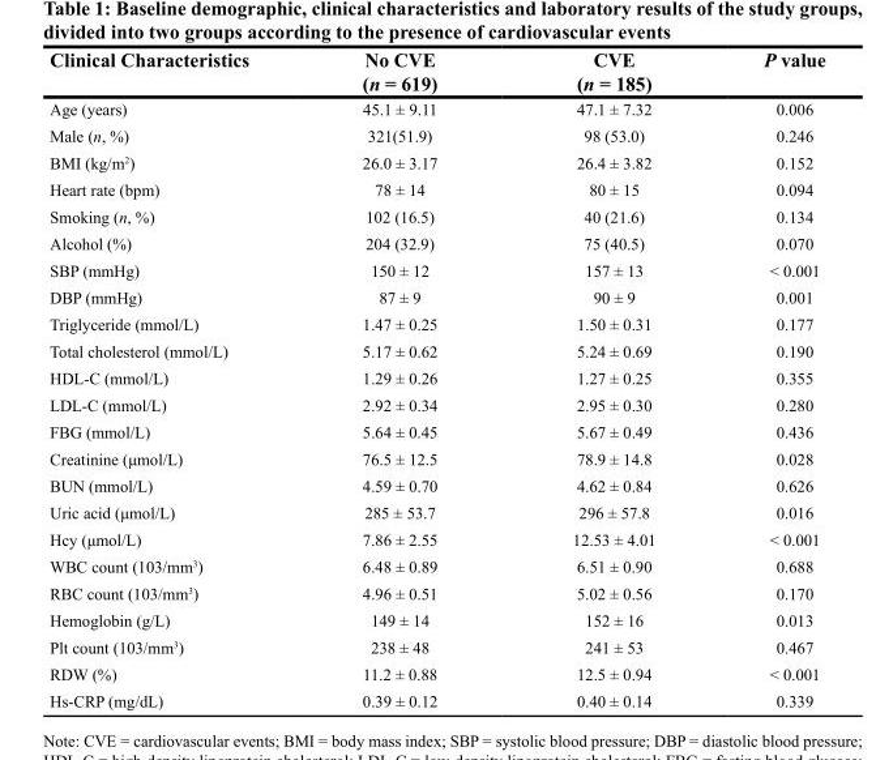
<table><thead><tr><td>Clinical Characteristics</td><td>No CVE (n = 619)</td><td>CVE (n = 185)</td><td>P value</td></tr></thead><tbody><tr><td>Age (years)</td><td>45.1 ± 9.11</td><td>47.1 ± 7.32</td><td>0.006</td></tr><tr><td>Male (n, %)</td><td>321(51.9)</td><td>98 (53.0)</td><td>0.246</td></tr><tr><td>BMI (kg/m<sup>2</sup>)</td><td>26.0 ± 3.17</td><td>26.4 ± 3.82</td><td>0.152</td></tr><tr><td>Heart rate (bpm)</td><td>78 ± 14</td><td>80 ± 15</td><td>0.094</td></tr><tr><td>Smoking (n, %)</td><td>102 (16.5)</td><td>40 (21.6)</td><td>0.134</td></tr><tr><td>Alcohol (%)</td><td>204 (32.9)</td><td>75 (40.5)</td><td>0.070</td></tr><tr><td>SBP (mmHg)</td><td>150 ± 12</td><td>157 ± 13</td><td>&lt; 0.001</td></tr><tr><td>DBP (mmHg)</td><td>87 ± 9</td><td>90 ± 9</td><td>0.001</td></tr><tr><td>Triglyceride (mmol/L)</td><td>1.47 ± 0.25</td><td>1.50 ± 0.31</td><td>0.177</td></tr><tr><td>Total cholesterol (mmol/L)</td><td>5.17 ± 0.62</td><td>5.24 ± 0.69</td><td>0.190</td></tr><tr><td>HDL-C (mmol/L)</td><td>1.29 ± 0.26</td><td>1.27 ± 0.25</td><td>0.355</td></tr><tr><td>LDL-C (mmol/L)</td><td>2.92 ± 0.34</td><td>2.95 ± 0.30</td><td>0.280</td></tr><tr><td>FBG (mmol/L)</td><td>5.64 ± 0.45</td><td>5.67 ± 0.49</td><td>0.436</td></tr><tr><td>Creatinine (μmol/L)</td><td>76.5 ± 12.5</td><td>78.9 ± 14.8</td><td>0.028</td></tr><tr><td>BUN (mmol/L)</td><td>4.59 ± 0.70</td><td>4.62 ± 0.84</td><td>0.626</td></tr><tr><td>Uric acid (μmol/L)</td><td>285 ± 53.7</td><td>296 ± 57.8</td><td>0.016</td></tr><tr><td>Hcy (μmol/L)</td><td>7.86 ± 2.55</td><td>12.53 ± 4.01</td><td>&lt; 0.001</td></tr><tr><td>WBC count (103/mm<sup>3</sup>)</td><td>6.48 ± 0.89</td><td>6.51 ± 0.90</td><td>0.688</td></tr><tr><td>RBC count (103/mm<sup>3</sup>)</td><td>4.96 ± 0.51</td><td>5.02 ± 0.56</td><td>0.170</td></tr><tr><td>Hemoglobin (g/L)</td><td>149 ± 14</td><td>152 ± 16</td><td>0.013</td></tr><tr><td>Plt count (103/mm<sup>3</sup>)</td><td>238 ± 48</td><td>241 ± 53</td><td>0.467</td></tr><tr><td>RDW (%)</td><td>11.2 ± 0.88</td><td>12.5 ± 0.94</td><td>&lt; 0.001</td></tr><tr><td>Hs-CRP (mg/dL)</td><td>0.39 ± 0.12</td><td>0.40 ± 0.14</td><td>0.339</td></tr></tbody></table>